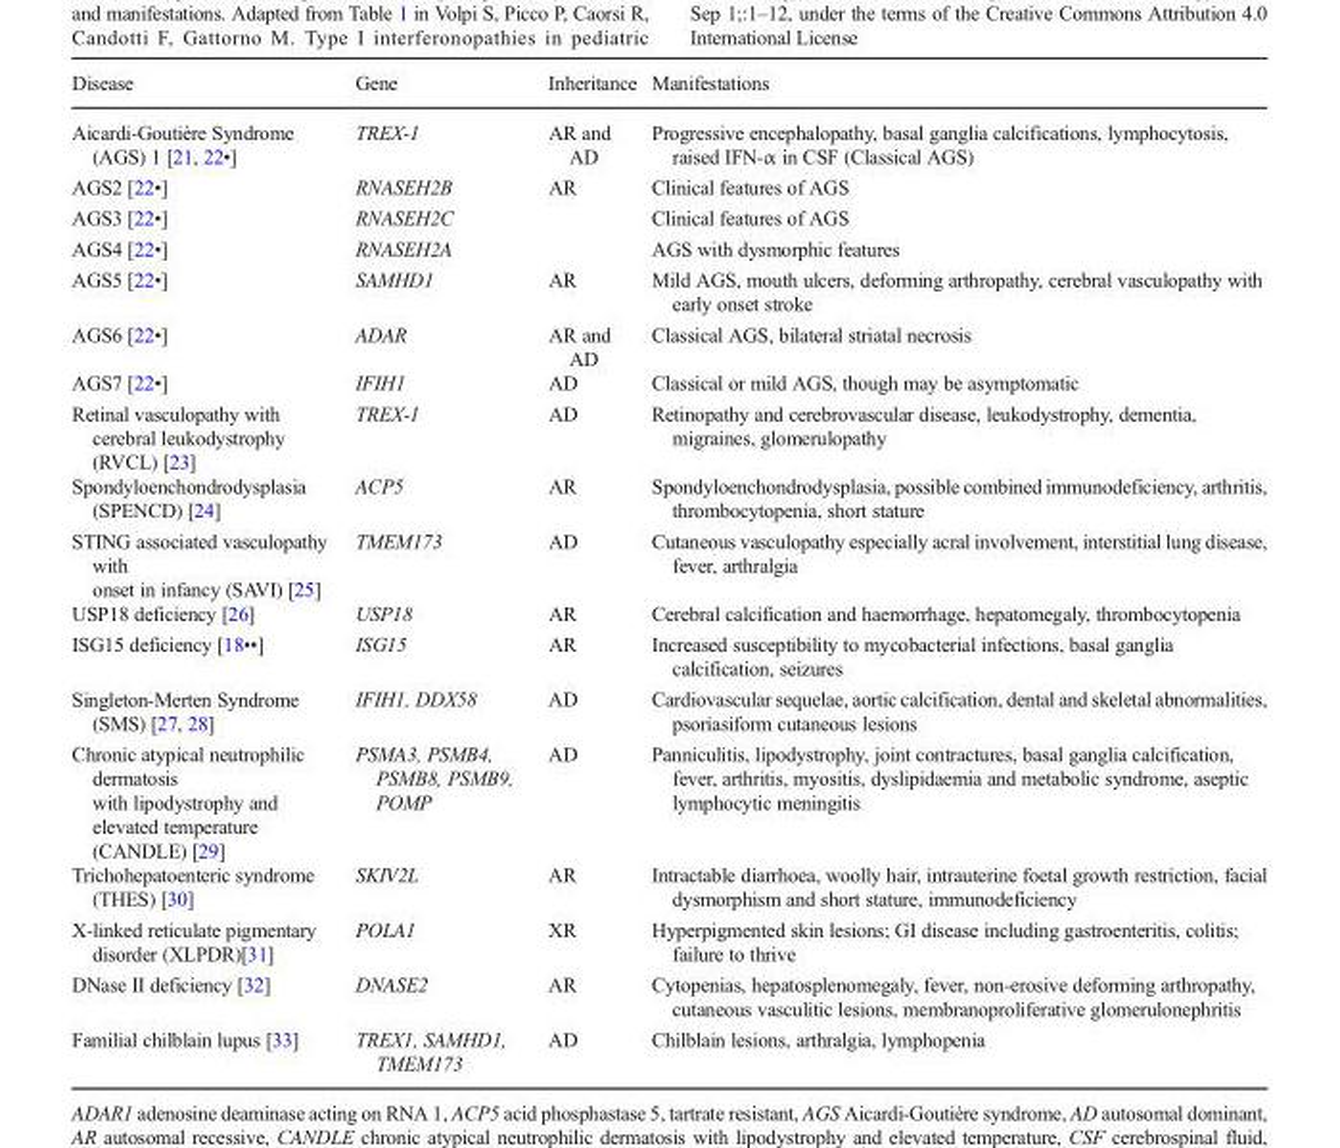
<table><thead><tr><td>Disease</td><td>Gene</td><td>Inheritance</td><td>Manifestations</td></tr></thead><tbody><tr><td>Aicardi-Goutière Syndrome (AGS) 1 [21, 22•]</td><td>TREX-1</td><td>AR and AD</td><td>Progressive encephalopathy, basal ganglia calcifications, lymphocytosis, raised IFN-α in CSF (Classical AGS)</td></tr><tr><td>AGS2 [22•]</td><td>RNASEH2B</td><td>AR</td><td>Clinical features of AGS</td></tr><tr><td>AGS3 [22•]</td><td>RNASEH2C</td><td></td><td>Clinical features of AGS</td></tr><tr><td>AGS4 [22•]</td><td>RNASEH2A</td><td></td><td>AGS with dysmorphic features</td></tr><tr><td>AGS5 [22•]</td><td>SAMHD1</td><td>AR</td><td>Mild AGS, mouth ulcers, deforming arthropathy, cerebral vasculopathy with early onset stroke</td></tr><tr><td>AGS6 [22•]</td><td>ADAR</td><td>AR and AD</td><td>Classical AGS, bilateral striatal necrosis</td></tr><tr><td>AGS7 [22•]</td><td>IFIH1</td><td>AD</td><td>Classical or mild AGS, though may be asymptomatic</td></tr><tr><td>Retinal vasculopathy with cerebral leukodystrophy (RVCL) [23]</td><td>TREX-1</td><td>AD</td><td>Retinopathy and cerebrovascular disease, leukodystrophy, dementia, migraines, glomerulopathy</td></tr><tr><td>Spondyloenchondrodysplasia (SPENCD) [24]</td><td>ACP5</td><td>AR</td><td>Spondyloenchondrodysplasia, possible combined immunodeficiency, arthritis, thrombocytopenia, short stature</td></tr><tr><td>STING associated vasculopathy with onset in infancy (SAVI) [25]</td><td>TMEM173</td><td>AD</td><td>Cutaneous vasculopathy especially acral involvement, interstitial lung disease, fever, arthralgia</td></tr><tr><td>USP18 deficiency [26]</td><td>USP18</td><td>AR</td><td>Cerebral calcification and haemorrhage, hepatomegaly, thrombocytopenia</td></tr><tr><td>ISG15 deficiency [18••]</td><td>ISG15</td><td>AR</td><td>Increased susceptibility to mycobacterial infections, basal ganglia calcification, seizures</td></tr><tr><td>Singleton-Merten Syndrome (SMS) [27, 28]</td><td>IFIH1, DDX58</td><td>AD</td><td>Cardiovascular sequelae, aortic calcification, dental and skeletal abnormalities, psoriasiform cutaneous lesions</td></tr><tr><td>Chronic atypical neutrophilic dermatosis with lipodystrophy and elevated temperature (CANDLE) [29]</td><td>PSMA3, PSMB4, PSMB8, PSMB9, POMP</td><td>AD</td><td>Panniculitis, lipodystrophy, joint contractures, basal ganglia calcification, fever, arthritis, myositis, dyslipidaemia and metabolic syndrome, aseptic lymphocytic meningitis</td></tr><tr><td>Trichohepatoenteric syndrome (THES) [30]</td><td>SKIV2L</td><td>AR</td><td>Intractable diarrhoea, woolly hair, intrauterine foetal growth restriction, facial dysmorphism and short stature, immunodeficiency</td></tr><tr><td>X-linked reticulate pigmentary disorder (XLPDR)[31]</td><td>POLA1</td><td>XR</td><td>Hyperpigmented skin lesions; GI disease including gastroenteritis, colitis; failure to thrive</td></tr><tr><td>DNase II deficiency [32]</td><td>DNASE2</td><td>AR</td><td>Cytopenias, hepatosplenomegaly, fever, non-erosive deforming arthropathy, cutaneous vasculitic lesions, membranoproliferative glomerulonephritis</td></tr><tr><td>Familial chilblain lupus [33]</td><td>TREX1, SAMHD1, TMEM173</td><td>AD</td><td>Chilblain lesions, arthralgia, lymphopenia</td></tr></tbody></table>